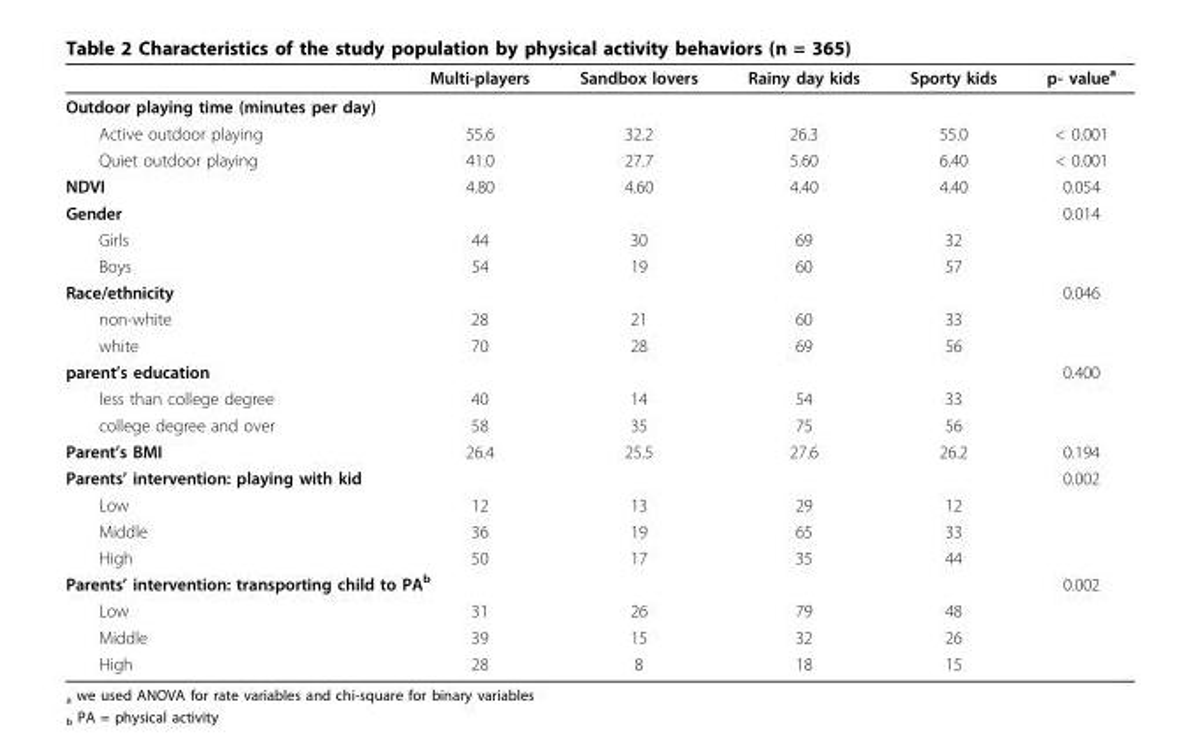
<table><thead><tr><td></td><td>Multi-players</td><td>Sandbox lovers</td><td>Rainy day kids</td><td>Sporty kids</td><td>p- value<sup>a</sup></td></tr></thead><tbody><tr><td colspan="6">Outdoor playing time (minutes per day)</td></tr><tr><td>Active outdoor playing</td><td>55.6</td><td>32.2</td><td>26.3</td><td>55.0</td><td>&lt; 0.001</td></tr><tr><td>Quiet outdoor playing</td><td>41.0</td><td>27.7</td><td>5.60</td><td>6.40</td><td>&lt; 0.001</td></tr><tr><td>NDVI</td><td>4.80</td><td>4.60</td><td>4.40</td><td>4.40</td><td>0.054</td></tr><tr><td>Gender</td><td></td><td></td><td></td><td></td><td>0.014</td></tr><tr><td>Girls</td><td>44</td><td>30</td><td>69</td><td>32</td><td></td></tr><tr><td>Boys</td><td>54</td><td>19</td><td>60</td><td>57</td><td></td></tr><tr><td>Race/ethnicity</td><td></td><td></td><td></td><td></td><td>0.046</td></tr><tr><td>non-white</td><td>28</td><td>21</td><td>60</td><td>33</td><td></td></tr><tr><td>white</td><td>70</td><td>28</td><td>69</td><td>56</td><td></td></tr><tr><td>parent’s education</td><td></td><td></td><td></td><td></td><td>0.400</td></tr><tr><td>less than college degree</td><td>40</td><td>14</td><td>54</td><td>33</td><td></td></tr><tr><td>college degree and over</td><td>58</td><td>35</td><td>75</td><td>56</td><td></td></tr><tr><td>Parent’s BMI</td><td>26.4</td><td>25.5</td><td>27.6</td><td>26.2</td><td>0.194</td></tr><tr><td>Parents’ intervention: playing with kid</td><td></td><td></td><td></td><td></td><td>0.002</td></tr><tr><td>Low</td><td>12</td><td>13</td><td>29</td><td>12</td><td></td></tr><tr><td>Middle</td><td>36</td><td>19</td><td>65</td><td>33</td><td></td></tr><tr><td>High</td><td>50</td><td>17</td><td>35</td><td>44</td><td></td></tr><tr><td colspan="2">Parents’ intervention: transporting child to PA<sup>b</sup></td><td></td><td></td><td></td><td>0.002</td></tr><tr><td>Low</td><td>31</td><td>26</td><td>79</td><td>48</td><td></td></tr><tr><td>Middle</td><td>39</td><td>15</td><td>32</td><td>26</td><td></td></tr><tr><td>High</td><td>28</td><td>8</td><td>18</td><td>15</td><td></td></tr></tbody></table>